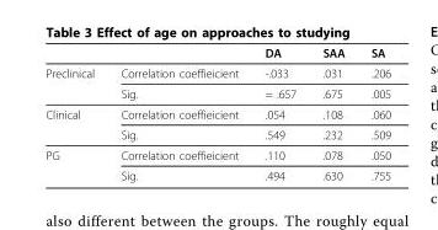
<table><thead><tr><td></td><td></td><td>DA</td><td>SAA</td><td>SA</td></tr></thead><tbody><tr><td rowspan="2">Preclinical</td><td>Correlation coeffieicient</td><td>-.033</td><td>.031</td><td>.206</td></tr><tr><td>Sig.</td><td>= .657</td><td>.675</td><td>.005</td></tr><tr><td rowspan="2">Clinical</td><td>Correlation coeffieicient</td><td>.054</td><td>.108</td><td>.060</td></tr><tr><td>Sig.</td><td>.549</td><td>.232</td><td>.509</td></tr><tr><td rowspan="2">PG</td><td>Correlation coeffieicient</td><td>.110</td><td>.078</td><td>.050</td></tr><tr><td>Sig.</td><td>.494</td><td>.630</td><td>.755</td></tr></tbody></table>